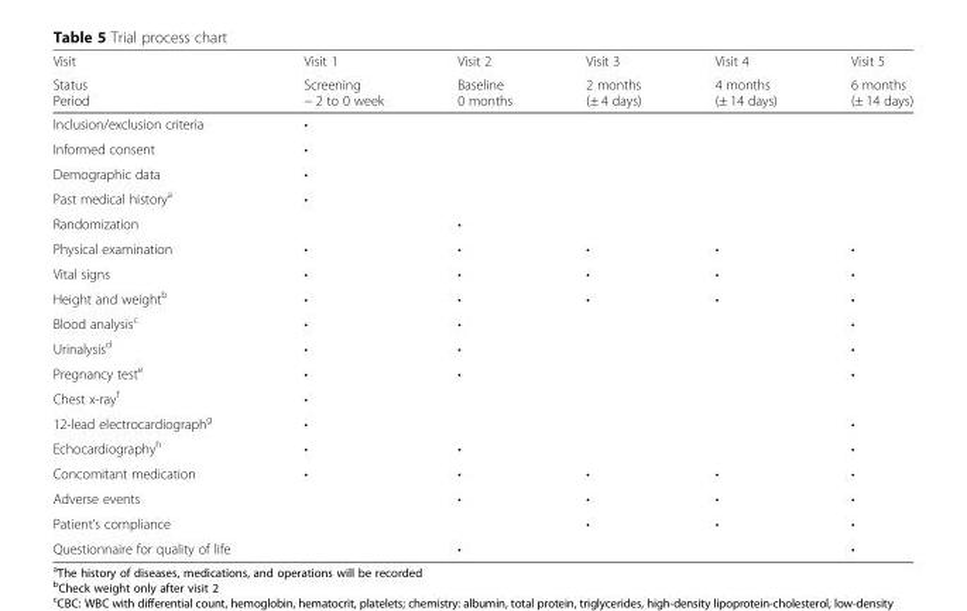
<table><thead><tr><td rowspan="2">Visit Status Period</td><td rowspan="2">Visit 1 Screening − 2 to 0 week</td><td rowspan="2">Visit 2 Baseline 0 months</td><td rowspan="2">Visit 3 2 months (± 4 days)</td><td rowspan="2">Visit 4 4 months (± 14 days)</td><td rowspan="2">Visit 5 6 months (± 14 days)</td></tr><tr></tr></thead><tbody><tr><td>Inclusion/exclusion criteria</td><td>•</td><td></td><td></td><td></td><td></td></tr><tr><td>Informed consent</td><td>•</td><td></td><td></td><td></td><td></td></tr><tr><td>Demographic data</td><td>•</td><td></td><td></td><td></td><td></td></tr><tr><td>Past medical history<sup>a</sup></td><td>•</td><td></td><td></td><td></td><td></td></tr><tr><td>Randomization</td><td></td><td>•</td><td></td><td></td><td></td></tr><tr><td>Physical examination</td><td>•</td><td>•</td><td>•</td><td>•</td><td>•</td></tr><tr><td>Vital signs</td><td>•</td><td>•</td><td>•</td><td>•</td><td>•</td></tr><tr><td>Height and weight<sup>b</sup></td><td>•</td><td>•</td><td>•</td><td>•</td><td>•</td></tr><tr><td>Blood analysis<sup>c</sup></td><td>•</td><td>•</td><td></td><td></td><td>•</td></tr><tr><td>Urinalysis<sup>d</sup></td><td>•</td><td>•</td><td></td><td></td><td>•</td></tr><tr><td>Pregnancy test<sup>e</sup></td><td>•</td><td>•</td><td></td><td></td><td>•</td></tr><tr><td>Chest x-ray<sup>f</sup></td><td>•</td><td></td><td></td><td></td><td></td></tr><tr><td>12-lead electrocardiograph<sup>g</sup></td><td>•</td><td></td><td></td><td></td><td>•</td></tr><tr><td>Echocardiography<sup>h</sup></td><td>•</td><td>•</td><td></td><td></td><td>•</td></tr><tr><td>Concomitant medication</td><td>•</td><td>•</td><td>•</td><td>•</td><td>•</td></tr><tr><td>Adverse events</td><td></td><td>•</td><td>•</td><td>•</td><td>•</td></tr><tr><td>Patient’s compliance</td><td></td><td></td><td>•</td><td>•</td><td>•</td></tr><tr><td>Questionnaire for quality of life</td><td></td><td>•</td><td></td><td></td><td>•</td></tr></tbody></table>